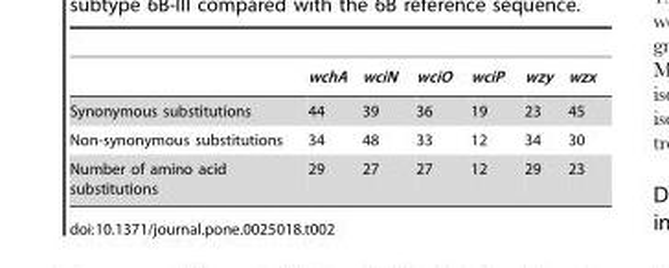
<table><thead><tr><td></td><td>wchA</td><td>wciN</td><td>wciO</td><td>wciP</td><td>wzy</td><td>wzx</td></tr></thead><tbody><tr><td>Synonymous substitutions</td><td>44</td><td>39</td><td>36</td><td>19</td><td>23</td><td>45</td></tr><tr><td>Non-synonymous substitutions</td><td>34</td><td>48</td><td>33</td><td>12</td><td>34</td><td>30</td></tr><tr><td>Number of amino acid substitutions</td><td>29</td><td>27</td><td>27</td><td>12</td><td>29</td><td>23</td></tr></tbody></table>